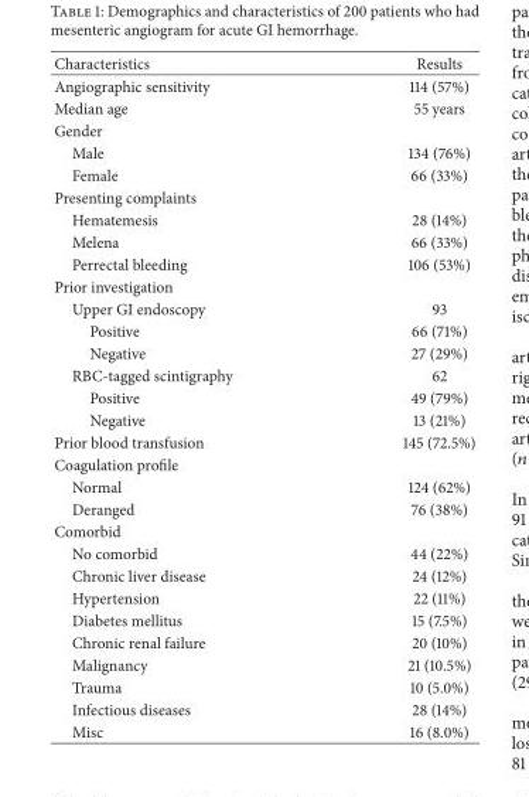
<table><thead><tr><td>Characteristics</td><td>Results</td></tr></thead><tbody><tr><td>Angiographic sensitivity</td><td>114 (57%)</td></tr><tr><td>Median age</td><td>55 years</td></tr><tr><td colspan="2">Gender</td></tr><tr><td>Male</td><td>134 (76%)</td></tr><tr><td>Female</td><td>66 (33%)</td></tr><tr><td colspan="2">Presenting complaints</td></tr><tr><td>Hematemesis</td><td>28 (14%)</td></tr><tr><td>Melena</td><td>66 (33%)</td></tr><tr><td>Perrectal bleeding</td><td>106 (53%)</td></tr><tr><td colspan="2">Prior investigation</td></tr><tr><td>Upper GI endoscopy</td><td>93</td></tr><tr><td>Positive</td><td>66 (71%)</td></tr><tr><td>Negative</td><td>27 (29%)</td></tr><tr><td>RBC-tagged scintigraphy</td><td>62</td></tr><tr><td>Positive</td><td>49 (79%)</td></tr><tr><td>Negative</td><td>13 (21%)</td></tr><tr><td>Prior blood transfusion</td><td>145 (72.5%)</td></tr><tr><td colspan="2">Coagulation profile</td></tr><tr><td>Normal</td><td>124 (62%)</td></tr><tr><td>Deranged</td><td>76 (38%)</td></tr><tr><td colspan="2">Comorbid</td></tr><tr><td>No comorbid</td><td>44 (22%)</td></tr><tr><td>Chronic liver disease</td><td>24 (12%)</td></tr><tr><td>Hypertension</td><td>22 (11%)</td></tr><tr><td>Diabetes mellitus</td><td>15 (7.5%)</td></tr><tr><td>Chronic renal failure</td><td>20 (10%)</td></tr><tr><td>Malignancy</td><td>21 (10.5%)</td></tr><tr><td>Trauma</td><td>10 (5.0%)</td></tr><tr><td>Infectious diseases</td><td>28 (14%)</td></tr><tr><td>Misc</td><td>16 (8.0%)</td></tr></tbody></table>